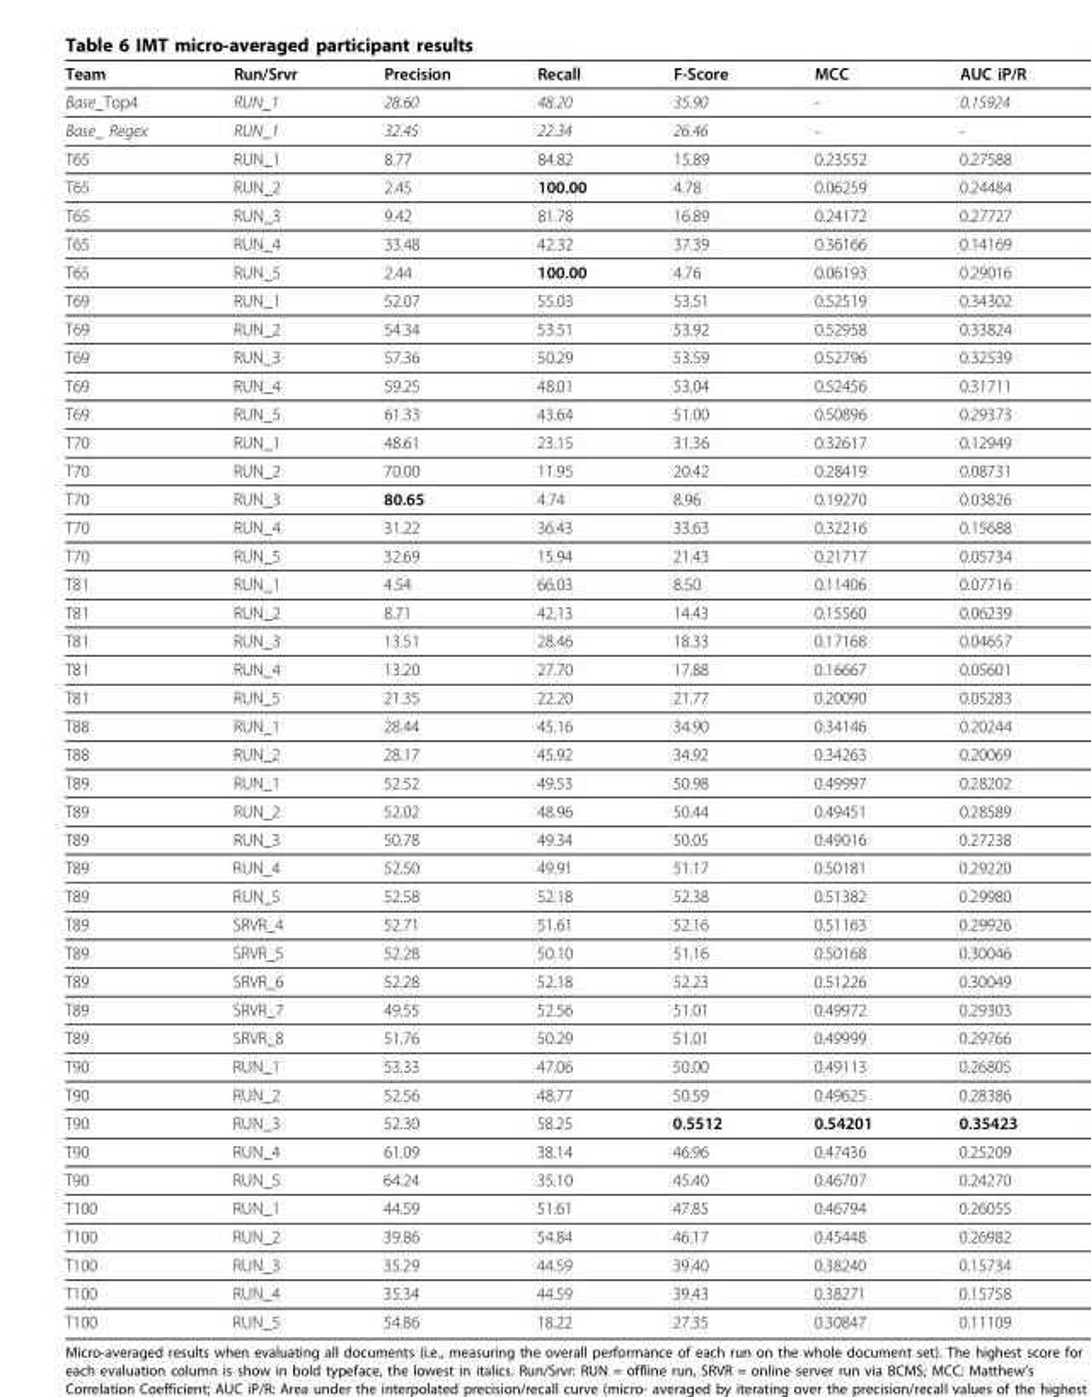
<table><thead><tr><td>Team</td><td>Run/Srvr</td><td>Precision</td><td>Recall</td><td>F-Score</td><td>MCC</td><td>AUC iP/R</td></tr></thead><tbody><tr><td>Base_Top4</td><td>RUN_1</td><td>28.60</td><td>48.20</td><td>35.90</td><td>-</td><td>0.15924</td></tr><tr><td>Base_ Regex</td><td>RUN_1</td><td>32.45</td><td>22.34</td><td>26.46</td><td>-</td><td>-</td></tr><tr><td>T65</td><td>RUN_1</td><td>8.77</td><td>84.82</td><td>15.89</td><td>0.23552</td><td>0.27588</td></tr><tr><td>T65</td><td>RUN_2</td><td>2.45</td><td>100.00</td><td>4.78</td><td>0.06259</td><td>0.24484</td></tr><tr><td>T65</td><td>RUN_3</td><td>9.42</td><td>81.78</td><td>16.89</td><td>0.24172</td><td>0.27727</td></tr><tr><td>T65</td><td>RUN_4</td><td>33.48</td><td>42.32</td><td>37.39</td><td>0.36166</td><td>0.14169</td></tr><tr><td>T65</td><td>RUN_5</td><td>2.44</td><td>100.00</td><td>4.76</td><td>0.06193</td><td>0.29016</td></tr><tr><td>T69</td><td>RUN_1</td><td>52.07</td><td>55.03</td><td>53.51</td><td>0.52519</td><td>0.34302</td></tr><tr><td>T69</td><td>RUN_2</td><td>54.34</td><td>53.51</td><td>53.92</td><td>0.52958</td><td>0.33824</td></tr><tr><td>T69</td><td>RUN_3</td><td>57.36</td><td>50.29</td><td>53.59</td><td>0.52796</td><td>0.32539</td></tr><tr><td>T69</td><td>RUN_4</td><td>59.25</td><td>48.01</td><td>53.04</td><td>0.52456</td><td>0.31711</td></tr><tr><td>T69</td><td>RUN_5</td><td>61.33</td><td>43.64</td><td>51.00</td><td>0.50896</td><td>0.29373</td></tr><tr><td>T70</td><td>RUN_1</td><td>48.61</td><td>23.15</td><td>31.36</td><td>0.32617</td><td>0.12949</td></tr><tr><td>T70</td><td>RUN_2</td><td>70.00</td><td>11.95</td><td>20.42</td><td>0.28419</td><td>0.08731</td></tr><tr><td>T70</td><td>RUN_3</td><td>80.65</td><td>4.74</td><td>8.96</td><td>0.19270</td><td>0.03826</td></tr><tr><td>T70</td><td>RUN_4</td><td>31.22</td><td>36.43</td><td>33.63</td><td>0.32216</td><td>0.15688</td></tr><tr><td>T70</td><td>RUN_5</td><td>32.69</td><td>15.94</td><td>21.43</td><td>0.21717</td><td>0.05734</td></tr><tr><td>T81</td><td>RUN_1</td><td>4.54</td><td>66.03</td><td>8.50</td><td>0.11406</td><td>0.07716</td></tr><tr><td>T81</td><td>RUN_2</td><td>8.71</td><td>42.13</td><td>14.43</td><td>0.15560</td><td>0.06239</td></tr><tr><td>T81</td><td>RUN_3</td><td>13.51</td><td>28.46</td><td>18.33</td><td>0.17168</td><td>0.04657</td></tr><tr><td>T81</td><td>RUN_4</td><td>13.20</td><td>27.70</td><td>17.88</td><td>0.16667</td><td>0.05601</td></tr><tr><td>T81</td><td>RUN_5</td><td>21.35</td><td>22.20</td><td>21.77</td><td>0.20090</td><td>0.05283</td></tr><tr><td>T88</td><td>RUN_1</td><td>28.44</td><td>45.16</td><td>34.90</td><td>0.34146</td><td>0.20244</td></tr><tr><td>T88</td><td>RUN_2</td><td>28.17</td><td>45.92</td><td>34.92</td><td>0.34263</td><td>0.20069</td></tr><tr><td>T89</td><td>RUN_1</td><td>52.52</td><td>49.53</td><td>50.98</td><td>0.49997</td><td>0.28202</td></tr><tr><td>T89</td><td>RUN_2</td><td>52.02</td><td>48.96</td><td>50.44</td><td>0.49451</td><td>0.28589</td></tr><tr><td>T89</td><td>RUN_3</td><td>50.78</td><td>49.34</td><td>50.05</td><td>0.49016</td><td>0.27238</td></tr><tr><td>T89</td><td>RUN_4</td><td>52.50</td><td>49.91</td><td>51.17</td><td>0.50181</td><td>0.29220</td></tr><tr><td>T89</td><td>RUN_5</td><td>52.58</td><td>52.18</td><td>52.38</td><td>0.51382</td><td>0.29980</td></tr><tr><td>T89</td><td>SRVR_4</td><td>52.71</td><td>51.61</td><td>52.16</td><td>0.51163</td><td>0.29926</td></tr><tr><td>T89</td><td>SRVR_5</td><td>52.28</td><td>50.10</td><td>51.16</td><td>0.50168</td><td>0.30046</td></tr><tr><td>T89</td><td>SRVR_6</td><td>52.28</td><td>52.18</td><td>52.23</td><td>0.51226</td><td>0.30049</td></tr><tr><td>T89</td><td>SRVR_7</td><td>49.55</td><td>52.56</td><td>51.01</td><td>0.49972</td><td>0.29303</td></tr><tr><td>T89</td><td>SRVR_8</td><td>51.76</td><td>50.29</td><td>51.01</td><td>0.49999</td><td>0.29766</td></tr><tr><td>T90</td><td>RUN_1</td><td>53.33</td><td>47.06</td><td>50.00</td><td>0.49113</td><td>0.26805</td></tr><tr><td>T90</td><td>RUN_2</td><td>52.56</td><td>48.77</td><td>50.59</td><td>0.49625</td><td>0.28386</td></tr><tr><td>T90</td><td>RUN_3</td><td>52.30</td><td>58.25</td><td>0.5512</td><td>0.54201</td><td>0.35423</td></tr><tr><td>T90</td><td>RUN_4</td><td>61.09</td><td>38.14</td><td>46.96</td><td>0.47436</td><td>0.25209</td></tr><tr><td>T90</td><td>RUN_5</td><td>64.24</td><td>35.10</td><td>45.40</td><td>0.46707</td><td>0.24270</td></tr><tr><td>T100</td><td>RUN_1</td><td>44.59</td><td>51.61</td><td>47.85</td><td>0.46794</td><td>0.26055</td></tr><tr><td>T100</td><td>RUN_2</td><td>39.86</td><td>54.84</td><td>46.17</td><td>0.45448</td><td>0.26982</td></tr><tr><td>T100</td><td>RUN_3</td><td>35.29</td><td>44.59</td><td>39.40</td><td>0.38240</td><td>0.15734</td></tr><tr><td>T100</td><td>RUN_4</td><td>35.34</td><td>44.59</td><td>39.43</td><td>0.38271</td><td>0.15758</td></tr><tr><td>T100</td><td>RUN_5</td><td>54.86</td><td>18.22</td><td>27.35</td><td>0.30847</td><td>0.11109</td></tr></tbody></table>